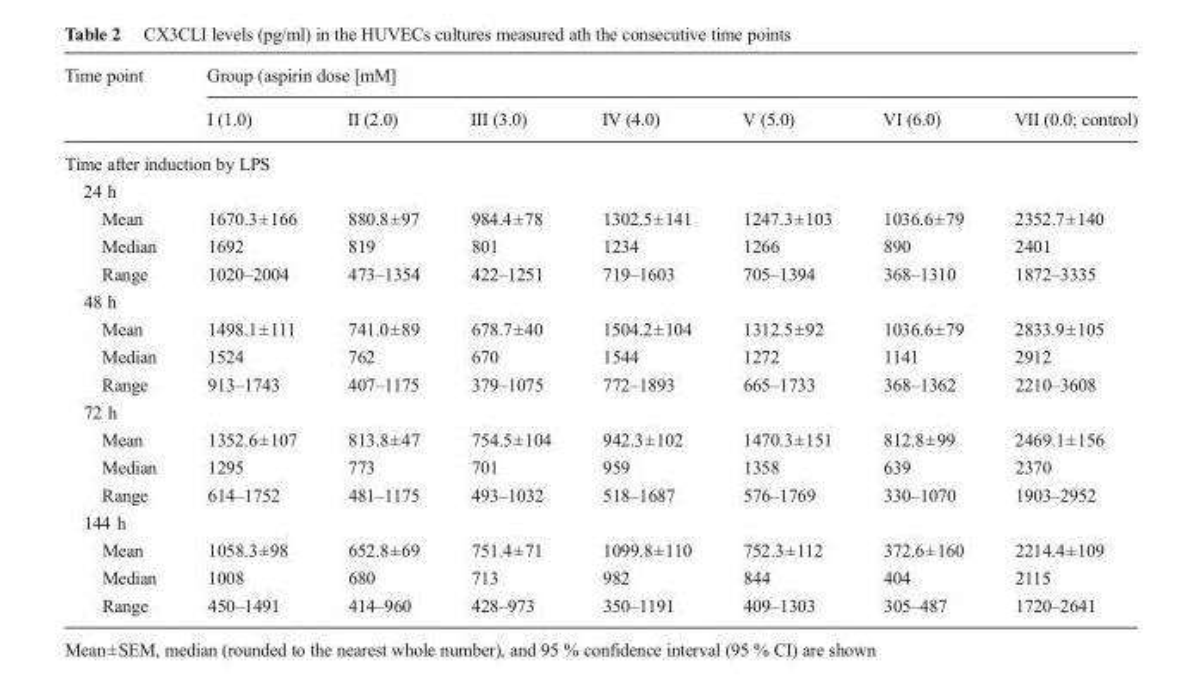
<table><thead><tr><td rowspan="2">Time point</td><td colspan="7">Group (aspirin dose [mM]</td></tr><tr><td>I (1.0)</td><td>II (2.0)</td><td>III (3.0)</td><td>IV (4.0)</td><td>V (5.0)</td><td>VI (6.0)</td><td>VII (0.0; control)</td></tr></thead><tbody><tr><td colspan="8">Time after induction by LPS</td></tr><tr><td colspan="8">24 h</td></tr><tr><td>Mean</td><td>1670.3±166</td><td>880.8±97</td><td>984.4±78</td><td>1302.5±141</td><td>1247.3±103</td><td>1036.6±79</td><td>2352.7±140</td></tr><tr><td>Median</td><td>1692</td><td>819</td><td>801</td><td>1234</td><td>1266</td><td>890</td><td>2401</td></tr><tr><td>Range</td><td>1020–2004</td><td>473–1354</td><td>422–1251</td><td>719–1603</td><td>705–1394</td><td>368–1310</td><td>1872–3335</td></tr><tr><td colspan="8">48 h</td></tr><tr><td>Mean</td><td>1498.1±111</td><td>741.0±89</td><td>678.7±40</td><td>1504.2±104</td><td>1312.5±92</td><td>1036.6±79</td><td>2833.9±105</td></tr><tr><td>Median</td><td>1524</td><td>762</td><td>670</td><td>1544</td><td>1272</td><td>1141</td><td>2912</td></tr><tr><td>Range</td><td>913–1743</td><td>407–1175</td><td>379–1075</td><td>772–1893</td><td>665–1733</td><td>368–1362</td><td>2210–3608</td></tr><tr><td colspan="8">72 h</td></tr><tr><td>Mean</td><td>1352.6±107</td><td>813.8±47</td><td>754.5±104</td><td>942.3±102</td><td>1470.3±151</td><td>812.8±99</td><td>2469.1±156</td></tr><tr><td>Median</td><td>1295</td><td>773</td><td>701</td><td>959</td><td>1358</td><td>639</td><td>2370</td></tr><tr><td>Range</td><td>614–1752</td><td>481–1175</td><td>493–1032</td><td>518–1687</td><td>576–1769</td><td>330–1070</td><td>1903–2952</td></tr><tr><td colspan="8">144 h</td></tr><tr><td>Mean</td><td>1058.3±98</td><td>652.8±69</td><td>751.4±71</td><td>1099.8±110</td><td>752.3±112</td><td>372.6±160</td><td>2214.4±109</td></tr><tr><td>Median</td><td>1008</td><td>680</td><td>713</td><td>982</td><td>844</td><td>404</td><td>2115</td></tr><tr><td>Range</td><td>450–1491</td><td>414–960</td><td>428–973</td><td>350–1191</td><td>409–1303</td><td>305–487</td><td>1720–2641</td></tr></tbody></table>